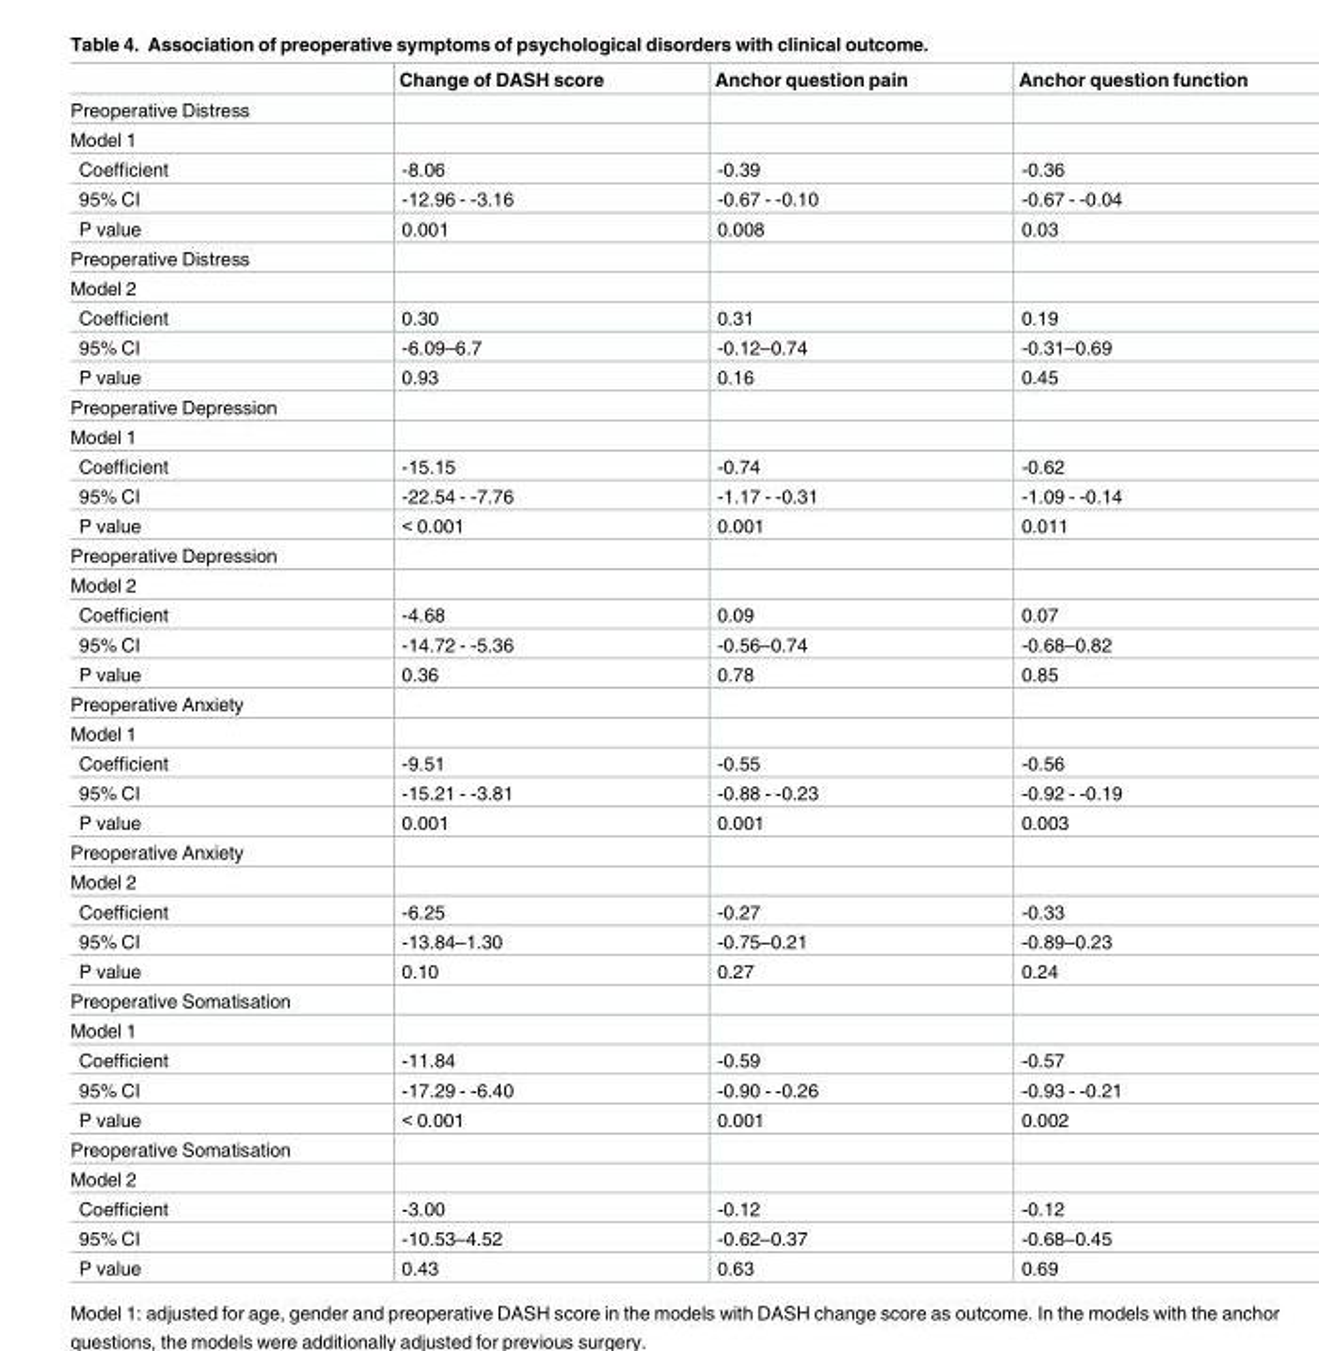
<table><thead><tr><td></td><td>Change of DASH score</td><td>Anchor question pain</td><td>Anchor question function</td></tr></thead><tbody><tr><td colspan="4">Preoperative Distress</td></tr><tr><td colspan="4">Model 1</td></tr><tr><td>Coefficient</td><td>-8.06</td><td>-0.39</td><td>-0.36</td></tr><tr><td>95% CI</td><td>-12.96 - -3.16</td><td>-0.67 - -0.10</td><td>-0.67 - -0.04</td></tr><tr><td>P value</td><td>0.001</td><td>0.008</td><td>0.03</td></tr><tr><td colspan="4">Preoperative Distress</td></tr><tr><td colspan="4">Model 2</td></tr><tr><td>Coefficient</td><td>0.30</td><td>0.31</td><td>0.19</td></tr><tr><td>95% CI</td><td>-6.09–6.7</td><td>-0.12–0.74</td><td>-0.31–0.69</td></tr><tr><td>P value</td><td>0.93</td><td>0.16</td><td>0.45</td></tr><tr><td colspan="4">Preoperative Depression</td></tr><tr><td colspan="4">Model 1</td></tr><tr><td>Coefficient</td><td>-15.15</td><td>-0.74</td><td>-0.62</td></tr><tr><td>95% CI</td><td>-22.54 - -7.76</td><td>-1.17 - -0.31</td><td>-1.09 - -0.14</td></tr><tr><td>P value</td><td>&lt; 0.001</td><td>0.001</td><td>0.011</td></tr><tr><td colspan="4">Preoperative Depression</td></tr><tr><td colspan="4">Model 2</td></tr><tr><td>Coefficient</td><td>-4.68</td><td>0.09</td><td>0.07</td></tr><tr><td>95% CI</td><td>-14.72 - -5.36</td><td>-0.56–0.74</td><td>-0.68–0.82</td></tr><tr><td>P value</td><td>0.36</td><td>0.78</td><td>0.85</td></tr><tr><td colspan="4">Preoperative Anxiety</td></tr><tr><td colspan="4">Model 1</td></tr><tr><td>Coefficient</td><td>-9.51</td><td>-0.55</td><td>-0.56</td></tr><tr><td>95% CI</td><td>-15.21 - -3.81</td><td>-0.88 - -0.23</td><td>-0.92 - -0.19</td></tr><tr><td>P value</td><td>0.001</td><td>0.001</td><td>0.003</td></tr><tr><td colspan="4">Preoperative Anxiety</td></tr><tr><td colspan="4">Model 2</td></tr><tr><td>Coefficient</td><td>-6.25</td><td>-0.27</td><td>-0.33</td></tr><tr><td>95% CI</td><td>-13.84–1.30</td><td>-0.75–0.21</td><td>-0.89–0.23</td></tr><tr><td>P value</td><td>0.10</td><td>0.27</td><td>0.24</td></tr><tr><td colspan="4">Preoperative Somatisation</td></tr><tr><td colspan="4">Model 1</td></tr><tr><td>Coefficient</td><td>-11.84</td><td>-0.59</td><td>-0.57</td></tr><tr><td>95% CI</td><td>-17.29 - -6.40</td><td>-0.90 - -0.26</td><td>-0.93 - -0.21</td></tr><tr><td>P value</td><td>&lt; 0.001</td><td>0.001</td><td>0.002</td></tr><tr><td colspan="4">Preoperative Somatisation</td></tr><tr><td colspan="4">Model 2</td></tr><tr><td>Coefficient</td><td>-3.00</td><td>-0.12</td><td>-0.12</td></tr><tr><td>95% CI</td><td>-10.53–4.52</td><td>-0.62–0.37</td><td>-0.68–0.45</td></tr><tr><td>P value</td><td>0.43</td><td>0.63</td><td>0.69</td></tr></tbody></table>